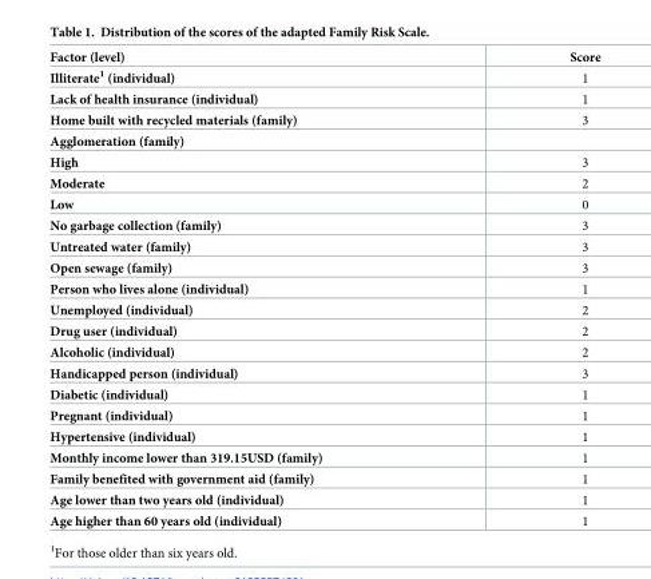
<table><thead><tr><td>Factor (level)</td><td>Score</td></tr></thead><tbody><tr><td>Illiterate<sup>1</sup> (individual)</td><td>1</td></tr><tr><td>Lack of health insurance (individual)</td><td>1</td></tr><tr><td>Home built with recycled materials (family)</td><td>3</td></tr><tr><td colspan="2">Agglomeration (family)</td></tr><tr><td>High</td><td>3</td></tr><tr><td>Moderate</td><td>2</td></tr><tr><td>Low</td><td>0</td></tr><tr><td>No garbage collection (family)</td><td>3</td></tr><tr><td>Untreated water (family)</td><td>3</td></tr><tr><td>Open sewage (family)</td><td>3</td></tr><tr><td>Person who lives alone (individual)</td><td>1</td></tr><tr><td>Unemployed (individual)</td><td>2</td></tr><tr><td>Drug user (individual)</td><td>2</td></tr><tr><td>Alcoholic (individual)</td><td>2</td></tr><tr><td>Handicapped person (individual)</td><td>3</td></tr><tr><td>Diabetic (individual)</td><td>1</td></tr><tr><td>Pregnant (individual)</td><td>1</td></tr><tr><td>Hypertensive (individual)</td><td>1</td></tr><tr><td>Monthly income lower than 319.15USD (family)</td><td>1</td></tr><tr><td>Family benefited with government aid (family)</td><td>1</td></tr><tr><td>Age lower than two years old (individual)</td><td>1</td></tr><tr><td>Age higher than 60 years old (individual)</td><td>1</td></tr></tbody></table>